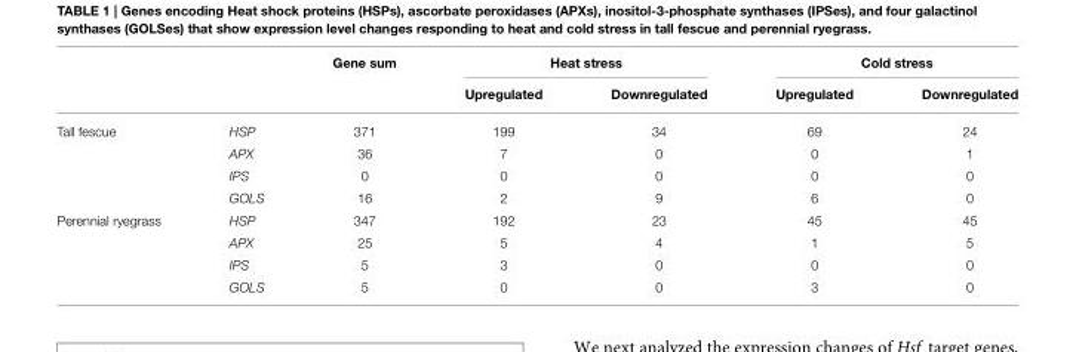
<table><thead><tr><td rowspan="2"></td><td rowspan="2"></td><td rowspan="2">Gene sum</td><td colspan="2">Heat stress</td><td colspan="2">Cold stress</td></tr><tr><td>Upregulated</td><td>Downregulated</td><td>Upregulated</td><td>Downregulated</td></tr></thead><tbody><tr><td rowspan="4">Tall fescue</td><td>HSP</td><td>371</td><td>199</td><td>34</td><td>69</td><td>24</td></tr><tr><td>APX</td><td>36</td><td>7</td><td>0</td><td>0</td><td>1</td></tr><tr><td>IPS</td><td>0</td><td>0</td><td>0</td><td>0</td><td>0</td></tr><tr><td>GOLS</td><td>16</td><td>2</td><td>9</td><td>6</td><td>0</td></tr><tr><td rowspan="4">Perennial ryegrass</td><td>HSP</td><td>347</td><td>192</td><td>23</td><td>45</td><td>45</td></tr><tr><td>APX</td><td>25</td><td>5</td><td>4</td><td>1</td><td>5</td></tr><tr><td>IPS</td><td>5</td><td>3</td><td>0</td><td>0</td><td>0</td></tr><tr><td>GOLS</td><td>5</td><td>0</td><td>0</td><td>3</td><td>0</td></tr></tbody></table>